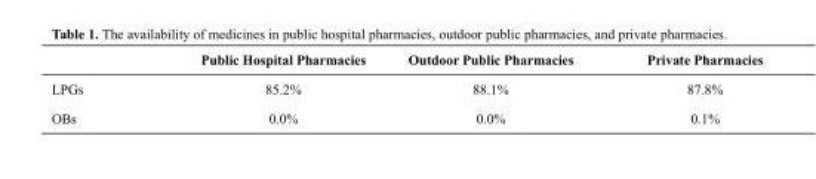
<table><thead><tr><td></td><td>Public Hospital Pharmacies</td><td>Outdoor Public Pharmacies</td><td>Private Pharmacies</td></tr></thead><tbody><tr><td>LPGs</td><td>85.2%</td><td>88.1%</td><td>87.8%</td></tr><tr><td>OBs</td><td>0.0%</td><td>0.0%</td><td>0.1%</td></tr></tbody></table>